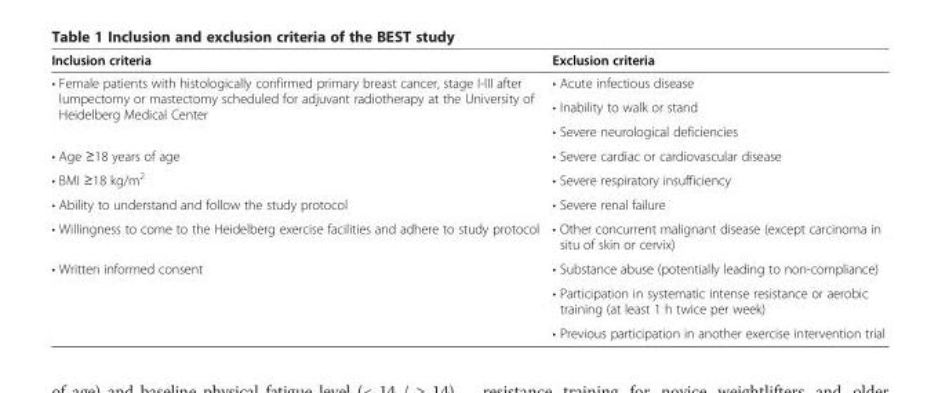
<table><thead><tr><td>Inclusion criteria</td><td>Exclusion criteria</td></tr></thead><tbody><tr><td rowspan="3">• Female patients with histologically confirmed primary breast cancer, stage I-III after lumpectomy or mastectomy scheduled for adjuvant radiotherapy at the University of Heidelberg Medical Center</td><td>• Acute infectious disease</td></tr><tr><td>• Inability to walk or stand</td></tr><tr><td>• Severe neurological deficiencies</td></tr><tr><td>• Age ≥18 years of age</td><td>• Severe cardiac or cardiovascular disease</td></tr><tr><td>• BMI ≥18 kg/m<sup>2</sup></td><td>• Severe respiratory insufficiency</td></tr><tr><td>• Ability to understand and follow the study protocol</td><td>• Severe renal failure</td></tr><tr><td>• Willingness to come to the Heidelberg exercise facilities and adhere to study protocol</td><td>• Other concurrent malignant disease (except carcinoma in situ of skin or cervix)</td></tr><tr><td rowspan="3">• Written informed consent</td><td>• Substance abuse (potentially leading to non-compliance)</td></tr><tr><td>• Participation in systematic intense resistance or aerobic training (at least 1 h twice per week)</td></tr><tr><td>• Previous participation in another exercise intervention trial</td></tr></tbody></table>